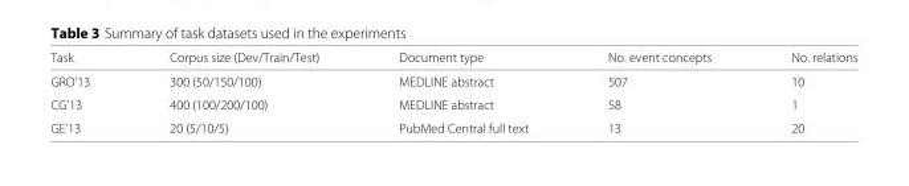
<table><thead><tr><td>Task</td><td>Corpus size (Dev/Train/Test)</td><td>Document type</td><td>No. event concepts</td><td>No. relations</td></tr></thead><tbody><tr><td>GRO’13</td><td>300 (50/150/100)</td><td>MEDLINE abstract</td><td>507</td><td>10</td></tr><tr><td>CG’13</td><td>400 (100/200/100)</td><td>MEDLINE abstract</td><td>58</td><td>1</td></tr><tr><td>GE’13</td><td>20 (5/10/5)</td><td>PubMed Central full text</td><td>13</td><td>20</td></tr></tbody></table>